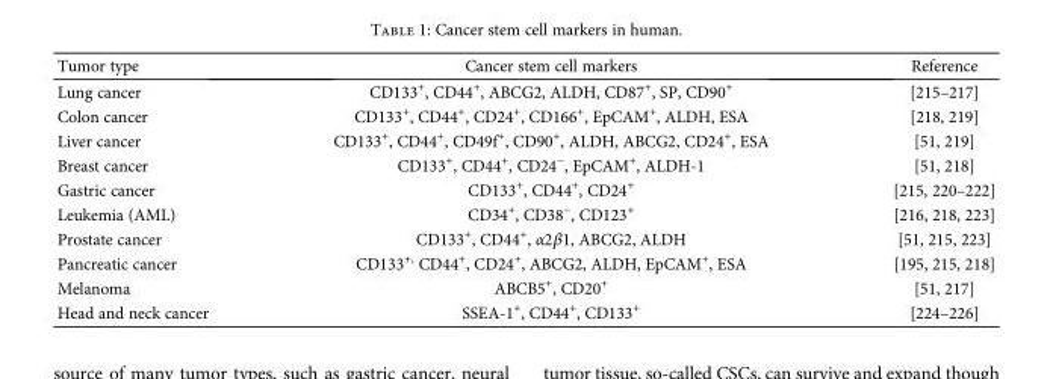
<table><thead><tr><td>Tumor type</td><td>Cancer stem cell markers</td><td>Reference</td></tr></thead><tbody><tr><td>Lung cancer</td><td>CD133<sup>+</sup>, CD44<sup>+</sup>, ABCG2, ALDH, CD87<sup>+</sup>, SP, CD90<sup>+</sup></td><td>[215–217]</td></tr><tr><td>Colon cancer</td><td>CD133<sup>+</sup>, CD44<sup>+</sup>, CD24<sup>+</sup>, CD166<sup>+</sup>, EpCAM<sup>+</sup>, ALDH, ESA</td><td>[218, 219]</td></tr><tr><td>Liver cancer</td><td>CD133<sup>+</sup>, CD44<sup>+</sup>, CD49f<sup>+</sup>, CD90<sup>+</sup>, ALDH, ABCG2, CD24<sup>+</sup>, ESA</td><td>[51, 219]</td></tr><tr><td>Breast cancer</td><td>CD133<sup>+</sup>, CD44<sup>+</sup>, CD24<sup>−</sup>, EpCAM<sup>+</sup>, ALDH-1</td><td>[51, 218]</td></tr><tr><td>Gastric cancer</td><td>CD133<sup>+</sup>, CD44<sup>+</sup>, CD24<sup>+</sup></td><td>[215, 220–222]</td></tr><tr><td>Leukemia (AML)</td><td>CD34<sup>+</sup>, CD38<sup>−</sup>, CD123<sup>+</sup></td><td>[216, 218, 223]</td></tr><tr><td>Prostate cancer</td><td>CD133<sup>+</sup>, CD44<sup>+</sup>, α2β1, ABCG2, ALDH</td><td>[51, 215, 223]</td></tr><tr><td>Pancreatic cancer</td><td>CD133<sup>+,</sup> CD44<sup>+</sup>, CD24<sup>+</sup>, ABCG2, ALDH, EpCAM<sup>+</sup>, ESA</td><td>[195, 215, 218]</td></tr><tr><td>Melanoma</td><td>ABCB5<sup>+</sup>, CD20<sup>+</sup></td><td>[51, 217]</td></tr><tr><td>Head and neck cancer</td><td>SSEA-1<sup>+</sup>, CD44<sup>+</sup>, CD133<sup>+</sup></td><td>[224–226]</td></tr></tbody></table>